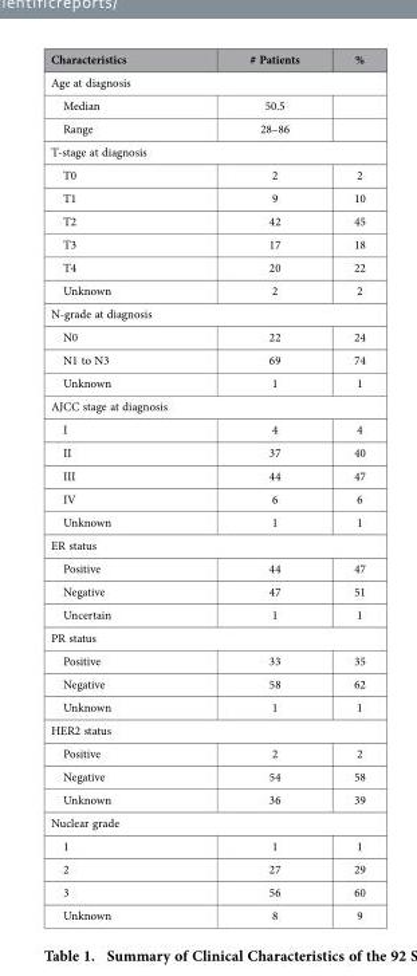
<table><thead><tr><td>Characteristics</td><td># Patients</td><td>%</td></tr></thead><tbody><tr><td colspan="3">Age at diagnosis</td></tr><tr><td>Median</td><td>50.5</td><td></td></tr><tr><td>Range</td><td>28–86</td><td></td></tr><tr><td colspan="3">T-stage at diagnosis</td></tr><tr><td>T0</td><td>2</td><td>2</td></tr><tr><td>T1</td><td>9</td><td>10</td></tr><tr><td>T2</td><td>42</td><td>45</td></tr><tr><td>T3</td><td>17</td><td>18</td></tr><tr><td>T4</td><td>20</td><td>22</td></tr><tr><td>Unknown</td><td>2</td><td>2</td></tr><tr><td colspan="3">N-grade at diagnosis</td></tr><tr><td>N0</td><td>22</td><td>24</td></tr><tr><td>N1 to N3</td><td>69</td><td>74</td></tr><tr><td>Unknown</td><td>1</td><td>1</td></tr><tr><td colspan="3">AJCC stage at diagnosis</td></tr><tr><td>I</td><td>4</td><td>4</td></tr><tr><td>II</td><td>37</td><td>40</td></tr><tr><td>III</td><td>44</td><td>47</td></tr><tr><td>IV</td><td>6</td><td>6</td></tr><tr><td>Unknown</td><td>1</td><td>1</td></tr><tr><td colspan="3">ER status</td></tr><tr><td>Positive</td><td>44</td><td>47</td></tr><tr><td>Negative</td><td>47</td><td>51</td></tr><tr><td>Uncertain</td><td>1</td><td>1</td></tr><tr><td colspan="3">PR status</td></tr><tr><td>Positive</td><td>33</td><td>35</td></tr><tr><td>Negative</td><td>58</td><td>62</td></tr><tr><td>Unknown</td><td>1</td><td>1</td></tr><tr><td colspan="3">HER2 status</td></tr><tr><td>Positive</td><td>2</td><td>2</td></tr><tr><td>Negative</td><td>54</td><td>58</td></tr><tr><td>Unknown</td><td>36</td><td>39</td></tr><tr><td colspan="3">Nuclear grade</td></tr><tr><td>1</td><td>1</td><td>1</td></tr><tr><td>2</td><td>27</td><td>29</td></tr><tr><td>3</td><td>56</td><td>60</td></tr><tr><td>Unknown</td><td>8</td><td>9</td></tr></tbody></table>